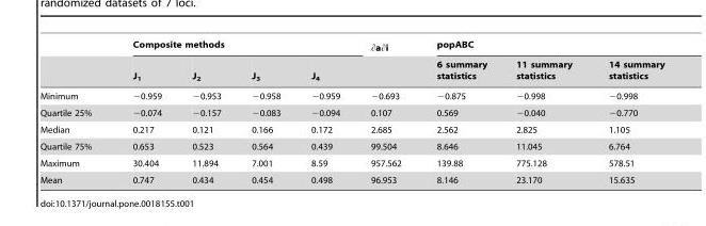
<table><thead><tr><td rowspan="2"></td><td colspan="4">Composite methods</td><td rowspan="2">∂a∂i</td><td colspan="3">popABC</td></tr><tr><td>J<sub>1</sub></td><td>J<sub>2</sub></td><td>J<sub>3</sub></td><td>J<sub>4</sub></td><td>6 summary statistics</td><td>11 summary statistics</td><td>14 summary statistics</td></tr></thead><tbody><tr><td>Minimum</td><td>−0.959</td><td>−0.953</td><td>−0.958</td><td>−0.959</td><td>−0.693</td><td>−0.875</td><td>−0.998</td><td>−0.998</td></tr><tr><td>Quartile 25%</td><td>−0.074</td><td>−0.157</td><td>−0.083</td><td>−0.094</td><td>0.107</td><td>0.569</td><td>−0.040</td><td>−0.770</td></tr><tr><td>Median</td><td>0.217</td><td>0.121</td><td>0.166</td><td>0.172</td><td>2.685</td><td>2.562</td><td>2.825</td><td>1.105</td></tr><tr><td>Quartile 75%</td><td>0.653</td><td>0.523</td><td>0.564</td><td>0.439</td><td>99.504</td><td>8.646</td><td>11.045</td><td>6.764</td></tr><tr><td>Maximum</td><td>30.404</td><td>11.894</td><td>7.001</td><td>8.59</td><td>957.562</td><td>139.88</td><td>775.128</td><td>578.51</td></tr><tr><td>Mean</td><td>0.747</td><td>0.434</td><td>0.454</td><td>0.498</td><td>96.953</td><td>8.146</td><td>23.170</td><td>15.635</td></tr></tbody></table>